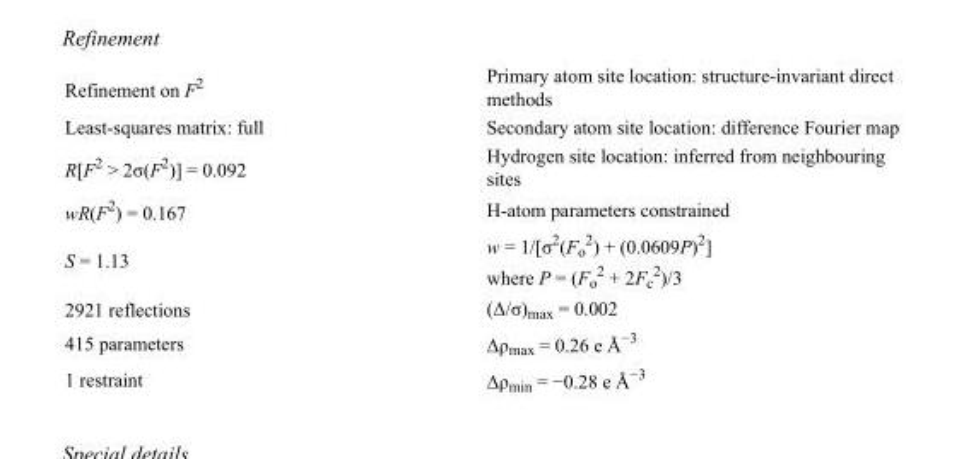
<table><tbody><tr><td>Refinement on F<sup>2</sup></td><td>Primary atom site location: structure-invariant direct methods</td></tr><tr><td>Least-squares matrix: full</td><td>Secondary atom site location: difference Fourier map</td></tr><tr><td>R[F<sup>2</sup> &gt; 2σ(F<sup>2</sup>)] = 0.092</td><td>Hydrogen site location: inferred from neighbouring sites</td></tr><tr><td>wR(F<sup>2</sup>) = 0.167</td><td>H-atom parameters constrained</td></tr><tr><td>S = 1.13</td><td>w = 1/[σ<sup>2</sup>(F<sub>o</sub> <sup>2</sup>) + (0.0609P)<sup>2</sup>] where P = (F<sub>o</sub> <sup>2</sup> + 2F<sub>c</sub> <sup>2</sup>)/3</td></tr><tr><td>2921 reflections</td><td>(Δ/σ)<sub>max</sub> = 0.002</td></tr><tr><td>415 parameters</td><td>Δρ<sub>max</sub> = 0.26 e Å<sup>−3</sup></td></tr><tr><td>1 restraint</td><td>Δρ<sub>min</sub> = −0.28 e Å<sup>−3</sup></td></tr></tbody></table>